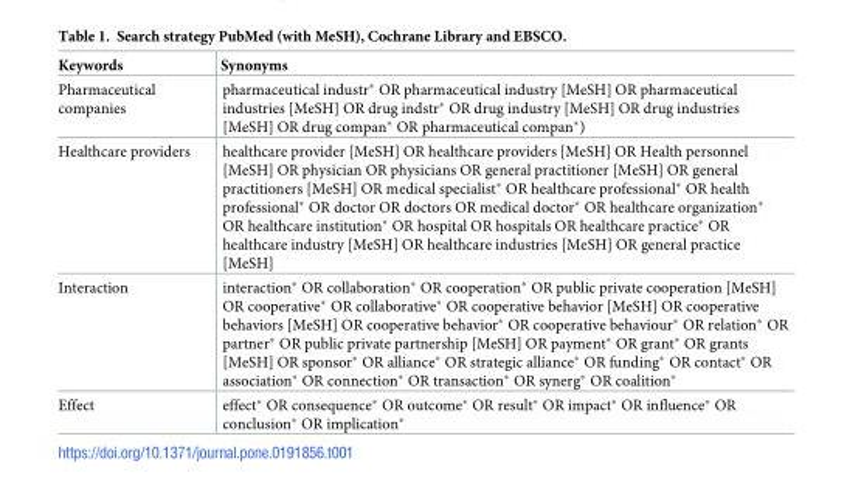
<table><thead><tr><td>Keywords</td><td>Synonyms</td></tr></thead><tbody><tr><td>Pharmaceutical companies</td><td>pharmaceutical industr* OR pharmaceutical industry [MeSH] OR pharmaceutical industries [MeSH] OR drug indstr* OR drug industry [MeSH] OR drug industries [MeSH] OR drug compan* OR pharmaceutical compan*)</td></tr><tr><td>Healthcare providers</td><td>healthcare provider [MeSH] OR healthcare providers [MeSH] OR Health personnel [MeSH] OR physician OR physicians OR general practitioner [MeSH] OR general practitioners [MeSH] OR medical specialist* OR healthcare professional* OR health professional* OR doctor OR doctors OR medical doctor* OR healthcare organization* OR healthcare institution* OR hospital OR hospitals OR healthcare practice* OR healthcare industry [MeSH] OR healthcare industries [MeSH] OR general practice [MeSH]</td></tr><tr><td>Interaction</td><td>interaction* OR collaboration* OR cooperation* OR public private cooperation [MeSH] OR cooperative* OR collaborative* OR cooperative behavior [MeSH] OR cooperative behaviors [MeSH] OR cooperative behavior* OR cooperative behaviour* OR relation* OR partner* OR public private partnership [MeSH] OR payment* OR grant* OR grants [MeSH] OR sponsor* OR alliance* OR strategic alliance* OR funding* OR contact* OR association* OR connection* OR transaction* OR synerg* OR coalition*</td></tr><tr><td>Effect</td><td>effect* OR consequence* OR outcome* OR result* OR impact* OR influence* OR conclusion* OR implication*</td></tr></tbody></table>